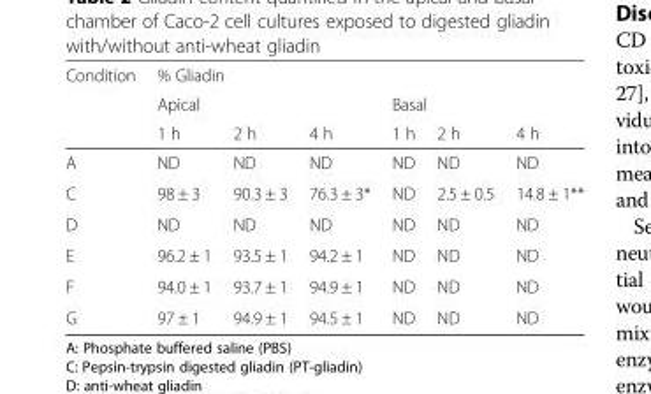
<table><thead><tr><td rowspan="3">Condition</td><td colspan="6">% Gliadin</td></tr><tr><td colspan="3">Apical</td><td colspan="3">Basal</td></tr><tr><td>1 h</td><td>2 h</td><td>4 h</td><td>1 h</td><td>2 h</td><td>4 h</td></tr></thead><tbody><tr><td>A</td><td>ND</td><td>ND</td><td>ND</td><td>ND</td><td>ND</td><td>ND</td></tr><tr><td>C</td><td>98 ± 3</td><td>90.3 ± 3</td><td>76.3 ± 3*</td><td>ND</td><td>2.5 ± 0.5</td><td>14.8 ± 1**</td></tr><tr><td>D</td><td>ND</td><td>ND</td><td>ND</td><td>ND</td><td>ND</td><td>ND</td></tr><tr><td>E</td><td>96.2 ± 1</td><td>93.5 ± 1</td><td>94.2 ± 1</td><td>ND</td><td>ND</td><td>ND</td></tr><tr><td>F</td><td>94.0 ± 1</td><td>93.7 ± 1</td><td>94.9 ± 1</td><td>ND</td><td>ND</td><td>ND</td></tr><tr><td>G</td><td>97 ± 1</td><td>94.9 ± 1</td><td>94.5 ± 1</td><td>ND</td><td>ND</td><td>ND</td></tr></tbody></table>